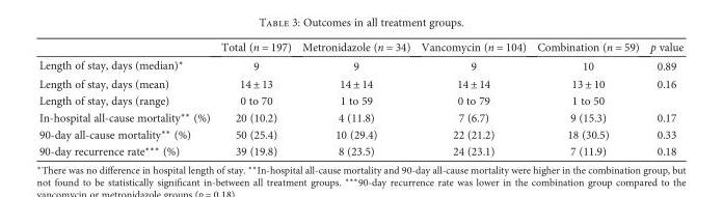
<table><thead><tr><td></td><td>Total (n = 197)</td><td>Metronidazole (n = 34)</td><td>Vancomycin (n = 104)</td><td>Combination (n = 59)</td><td>p value</td></tr></thead><tbody><tr><td>Length of stay, days (median)∗</td><td>9</td><td>9</td><td>9</td><td>10</td><td>0.89</td></tr><tr><td>Length of stay, days (mean)</td><td>14 ± 13</td><td>14 ± 14</td><td>14 ± 14</td><td>13 ± 10</td><td>0.16</td></tr><tr><td>Length of stay, days (range)</td><td>0 to 70</td><td>1 to 59</td><td>0 to 79</td><td>1 to 50</td><td></td></tr><tr><td>In-hospital all-cause mortality∗∗ (%)</td><td>20 (10.2)</td><td>4 (11.8)</td><td>7 (6.7)</td><td>9 (15.3)</td><td>0.17</td></tr><tr><td>90-day all-cause mortality∗∗ (%)</td><td>50 (25.4)</td><td>10 (29.4)</td><td>22 (21.2)</td><td>18 (30.5)</td><td>0.33</td></tr><tr><td>90-day recurrence rate∗∗∗ (%)</td><td>39 (19.8)</td><td>8 (23.5)</td><td>24 (23.1)</td><td>7 (11.9)</td><td>0.18</td></tr></tbody></table>